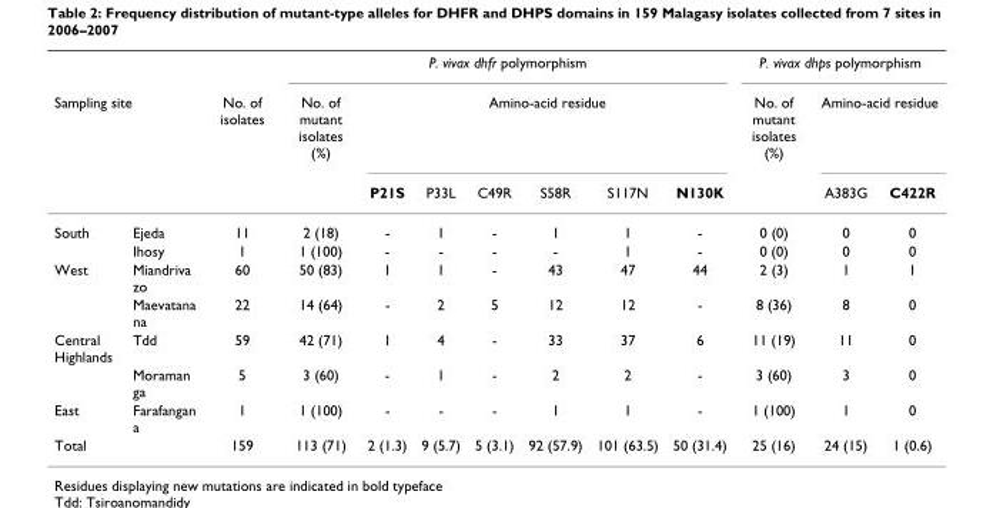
<table><thead><tr><td></td><td></td><td rowspan="3">No. of isolates</td><td colspan="7">P. vivax dhfr polymorphism</td><td colspan="3">P. vivax dhps polymorphism</td></tr><tr><td colspan="2">Sampling site</td><td rowspan="2">No. of mutant isolates (%)</td><td colspan="6">Amino-acid residue</td><td rowspan="2">No. of mutant isolates (%)</td><td colspan="2">Amino-acid residue</td></tr><tr><td></td><td></td><td>P21S</td><td>P33L</td><td>C49R</td><td>S58R</td><td>S117N</td><td>N130K</td><td>A383G</td><td>C422R</td></tr></thead><tbody><tr><td rowspan="2">South</td><td>Ejeda</td><td>11</td><td>2 (18)</td><td>-</td><td>1</td><td>-</td><td>1</td><td>1</td><td>-</td><td>0 (0)</td><td>0</td><td>0</td></tr><tr><td>Ihosy</td><td>1</td><td>1 (100)</td><td>-</td><td>-</td><td>-</td><td>-</td><td>1</td><td>-</td><td>0 (0)</td><td>0</td><td>0</td></tr><tr><td rowspan="2">West</td><td>Miandriva zo</td><td>60</td><td>50 (83)</td><td>1</td><td>1</td><td>-</td><td>43</td><td>47</td><td>44</td><td>2 (3)</td><td>1</td><td>1</td></tr><tr><td>Maevatana na</td><td>22</td><td>14 (64)</td><td>-</td><td>2</td><td>5</td><td>12</td><td>12</td><td>-</td><td>8 (36)</td><td>8</td><td>0</td></tr><tr><td rowspan="2">Central Highlands</td><td>Tdd</td><td>59</td><td>42 (71)</td><td>1</td><td>4</td><td>-</td><td>33</td><td>37</td><td>6</td><td>11 (19)</td><td>11</td><td>0</td></tr><tr><td>Moraman ga</td><td>5</td><td>3 (60)</td><td>-</td><td>1</td><td>-</td><td>2</td><td>2</td><td>-</td><td>3 (60)</td><td>3</td><td>0</td></tr><tr><td>East</td><td>Farafangan a</td><td>1</td><td>1 (100)</td><td>-</td><td>-</td><td>-</td><td>1</td><td>1</td><td>-</td><td>1 (100)</td><td>1</td><td>0</td></tr><tr><td>Total</td><td></td><td>159</td><td>113 (71)</td><td>2 (1.3)</td><td>9 (5.7)</td><td>5 (3.1)</td><td>92 (57.9)</td><td>101 (63.5)</td><td>50 (31.4)</td><td>25 (16)</td><td>24 (15)</td><td>1 (0.6)</td></tr></tbody></table>